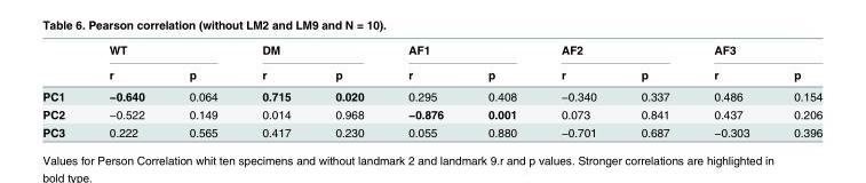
<table><thead><tr><td rowspan="2"></td><td colspan="2">WT</td><td colspan="2">DM</td><td colspan="2">AF1</td><td colspan="2">AF2</td><td colspan="2">AF3</td></tr><tr><td>r</td><td>p</td><td>r</td><td>p</td><td>r</td><td>p</td><td>r</td><td>p</td><td>r</td><td>p</td></tr></thead><tbody><tr><td>PC1</td><td>−0.640</td><td>0.064</td><td>0.715</td><td>0.020</td><td>0.295</td><td>0.408</td><td>−0.340</td><td>0.337</td><td>0.486</td><td>0.154</td></tr><tr><td>PC2</td><td>−0.522</td><td>0.149</td><td>0.014</td><td>0.968</td><td>−0.876</td><td>0.001</td><td>0.073</td><td>0.841</td><td>0.437</td><td>0.206</td></tr><tr><td>PC3</td><td>0.222</td><td>0.565</td><td>0.417</td><td>0.230</td><td>0.055</td><td>0.880</td><td>−0.701</td><td>0.687</td><td>−0.303</td><td>0.396</td></tr></tbody></table>